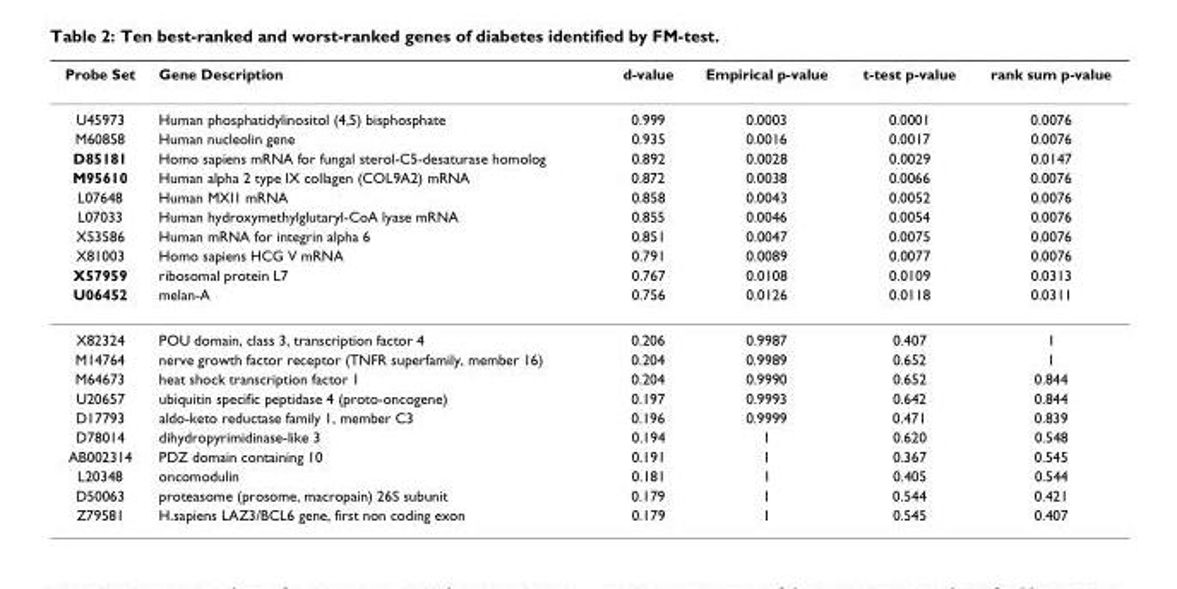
<table><thead><tr><td>Probe Set</td><td>Gene Description</td><td>d-value</td><td>Empirical p-value</td><td>t-test p-value</td><td>rank sum p-value</td></tr></thead><tbody><tr><td>U45973</td><td>Human phosphatidylinositol (4,5) bisphosphate</td><td>0.999</td><td>0.0003</td><td>0.0001</td><td>0.0076</td></tr><tr><td>M60858</td><td>Human nucleolin gene</td><td>0.935</td><td>0.0016</td><td>0.0017</td><td>0.0076</td></tr><tr><td>D85181</td><td>Homo sapiens mRNA for fungal sterol-C5-desaturase homolog</td><td>0.892</td><td>0.0028</td><td>0.0029</td><td>0.0147</td></tr><tr><td>M95610</td><td>Human alpha 2 type IX collagen (COL9A2) mRNA</td><td>0.872</td><td>0.0038</td><td>0.0066</td><td>0.0076</td></tr><tr><td>L07648</td><td>Human MXI1 mRNA</td><td>0.858</td><td>0.0043</td><td>0.0052</td><td>0.0076</td></tr><tr><td>L07033</td><td>Human hydroxymethylglutaryl-CoA lyase mRNA</td><td>0.855</td><td>0.0046</td><td>0.0054</td><td>0.0076</td></tr><tr><td>X53586</td><td>Human mRNA for integrin alpha 6</td><td>0.851</td><td>0.0047</td><td>0.0075</td><td>0.0076</td></tr><tr><td>X81003</td><td>Homo sapiens HCG V mRNA</td><td>0.791</td><td>0.0089</td><td>0.0077</td><td>0.0076</td></tr><tr><td>X57959</td><td>ribosomal protein L7</td><td>0.767</td><td>0.0108</td><td>0.0109</td><td>0.0313</td></tr><tr><td>U06452</td><td>melan-A</td><td>0.756</td><td>0.0126</td><td>0.0118</td><td>0.0311</td></tr><tr><td>X82324</td><td>POU domain, class 3, transcription factor 4</td><td>0.206</td><td>0.9987</td><td>0.407</td><td>1</td></tr><tr><td>M14764</td><td>nerve growth factor receptor (TNFR superfamily, member 16)</td><td>0.204</td><td>0.9989</td><td>0.652</td><td>1</td></tr><tr><td>M64673</td><td>heat shock transcription factor 1</td><td>0.204</td><td>0.9990</td><td>0.652</td><td>0.844</td></tr><tr><td>U20657</td><td>ubiquitin specific peptidase 4 (proto-oncogene)</td><td>0.197</td><td>0.9993</td><td>0.642</td><td>0.844</td></tr><tr><td>D17793</td><td>aldo-keto reductase family 1, member C3</td><td>0.196</td><td>0.9999</td><td>0.471</td><td>0.839</td></tr><tr><td>D78014</td><td>dihydropyrimidinase-like 3</td><td>0.194</td><td>1</td><td>0.620</td><td>0.548</td></tr><tr><td>AB002314</td><td>PDZ domain containing 10</td><td>0.191</td><td>1</td><td>0.367</td><td>0.545</td></tr><tr><td>L20348</td><td>oncomodulin</td><td>0.181</td><td>1</td><td>0.405</td><td>0.544</td></tr><tr><td>D50063</td><td>proteasome (prosome, macropain) 26S subunit</td><td>0.179</td><td>1</td><td>0.544</td><td>0.421</td></tr><tr><td>Z79581</td><td>H.sapiens LAZ3/BCL6 gene, first non coding exon</td><td>0.179</td><td>1</td><td>0.545</td><td>0.407</td></tr></tbody></table>